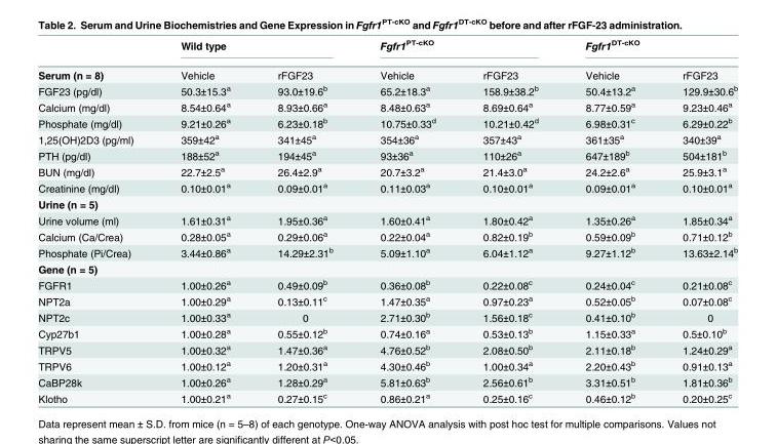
<table><thead><tr><td rowspan="2">Serum (n = 8)</td><td colspan="2">Wild type</td><td colspan="2">Fgfr1<sup>PT-cKO</sup></td><td colspan="2">Fgfr1<sup>DT-cKO</sup></td></tr><tr><td>Vehicle</td><td>rFGF23</td><td>Vehicle</td><td>rFGF23</td><td>Vehicle</td><td>rFGF23</td></tr></thead><tbody><tr><td>FGF23 (pg/dl)</td><td>50.3±15.3<sup>a</sup></td><td>93.0±19.6<sup>b</sup></td><td>65.2±18.3<sup>a</sup></td><td>158.9±38.2<sup>b</sup></td><td>50.4±13.2<sup>a</sup></td><td>129.9±30.6<sup>b</sup></td></tr><tr><td>Calcium (mg/dl)</td><td>8.54±0.64<sup>a</sup></td><td>8.93±0.66<sup>a</sup></td><td>8.48±0.63<sup>a</sup></td><td>8.69±0.64<sup>a</sup></td><td>8.77±0.59<sup>a</sup></td><td>9.23±0.46<sup>a</sup></td></tr><tr><td>Phosphate (mg/dl)</td><td>9.21±0.26<sup>a</sup></td><td>6.23±0.18<sup>b</sup></td><td>10.75±0.33<sup>d</sup></td><td>10.21±0.42<sup>d</sup></td><td>6.98±0.31<sup>c</sup></td><td>6.29±0.22<sup>b</sup></td></tr><tr><td>1,25(OH)2D3 (pg/ml)</td><td>359±42<sup>a</sup></td><td>341±45<sup>a</sup></td><td>354±36<sup>a</sup></td><td>357±43<sup>a</sup></td><td>361±35<sup>a</sup></td><td>340±39<sup>a</sup></td></tr><tr><td>PTH (pg/dl)</td><td>188±52<sup>a</sup></td><td>194±45<sup>a</sup></td><td>93±36<sup>a</sup></td><td>110±26<sup>a</sup></td><td>647±189<sup>b</sup></td><td>504±181<sup>b</sup></td></tr><tr><td>BUN (mg/dl)</td><td>22.7±2.5<sup>a</sup></td><td>26.4±2.9<sup>a</sup></td><td>20.7±3.2<sup>a</sup></td><td>21.4±3.0<sup>a</sup></td><td>24.2±2.6<sup>a</sup></td><td>25.9±3.1<sup>a</sup></td></tr><tr><td>Creatinine (mg/dl)</td><td>0.10±0.01<sup>a</sup></td><td>0.09±0.01<sup>a</sup></td><td>0.11±0.03<sup>a</sup></td><td>0.10±0.01<sup>a</sup></td><td>0.09±0.01<sup>a</sup></td><td>0.10±0.01<sup>a</sup></td></tr><tr><td colspan="7">Urine (n = 5)</td></tr><tr><td>Urine volume (ml)</td><td>1.61±0.31<sup>a</sup></td><td>1.95±0.36<sup>a</sup></td><td>1.60±0.41<sup>a</sup></td><td>1.80±0.42<sup>a</sup></td><td>1.35±0.26<sup>a</sup></td><td>1.85±0.34<sup>a</sup></td></tr><tr><td>Calcium (Ca/Crea)</td><td>0.28±0.05<sup>a</sup></td><td>0.29±0.06<sup>a</sup></td><td>0.22±0.04<sup>a</sup></td><td>0.82±0.19<sup>b</sup></td><td>0.59±0.09<sup>b</sup></td><td>0.71±0.12<sup>b</sup></td></tr><tr><td>Phosphate (Pi/Crea)</td><td>3.44±0.86<sup>a</sup></td><td>14.29±2.31<sup>b</sup></td><td>5.09±1.10<sup>a</sup></td><td>6.04±1.12<sup>a</sup></td><td>9.27±1.12<sup>b</sup></td><td>13.63±2.14<sup>b</sup></td></tr><tr><td colspan="7">Gene (n = 5)</td></tr><tr><td>FGFR1</td><td>1.00±0.26<sup>a</sup></td><td>0.49±0.09<sup>b</sup></td><td>0.36±0.08<sup>b</sup></td><td>0.22±0.08<sup>c</sup></td><td>0.24±0.04<sup>c</sup></td><td>0.21±0.08<sup>c</sup></td></tr><tr><td>NPT2a</td><td>1.00±0.29<sup>a</sup></td><td>0.13±0.11<sup>c</sup></td><td>1.47±0.35<sup>a</sup></td><td>0.97±0.23<sup>a</sup></td><td>0.52±0.05<sup>b</sup></td><td>0.07±0.08<sup>c</sup></td></tr><tr><td>NPT2c</td><td>1.00±0.33<sup>a</sup></td><td>0</td><td>2.71±0.30<sup>b</sup></td><td>1.56±0.18<sup>c</sup></td><td>0.41±0.10<sup>b</sup></td><td>0</td></tr><tr><td>Cyp27b1</td><td>1.00±0.28<sup>a</sup></td><td>0.55±0.12<sup>b</sup></td><td>0.74±0.16<sup>a</sup></td><td>0.53±0.13<sup>b</sup></td><td>1.15±0.33<sup>a</sup></td><td>0.5±0.10<sup>b</sup></td></tr><tr><td>TRPV5</td><td>1.00±0.32<sup>a</sup></td><td>1.47±0.36<sup>a</sup></td><td>4.76±0.52<sup>b</sup></td><td>2.08±0.50<sup>b</sup></td><td>2.11±0.18<sup>b</sup></td><td>1.24±0.29<sup>a</sup></td></tr><tr><td>TRPV6</td><td>1.00±0.12<sup>a</sup></td><td>1.20±0.31<sup>a</sup></td><td>4.30±0.46<sup>b</sup></td><td>1.00±0.34<sup>a</sup></td><td>2.20±0.43<sup>b</sup></td><td>0.91±0.13<sup>a</sup></td></tr><tr><td>CaBP28k</td><td>1.00±0.26<sup>a</sup></td><td>1.28±0.29<sup>a</sup></td><td>5.81±0.63<sup>b</sup></td><td>2.56±0.61<sup>b</sup></td><td>3.31±0.51<sup>b</sup></td><td>1.81±0.36<sup>b</sup></td></tr><tr><td>Klotho</td><td>1.00±0.21<sup>a</sup></td><td>0.27±0.15<sup>c</sup></td><td>0.86±0.21<sup>a</sup></td><td>0.25±0.16<sup>c</sup></td><td>0.46±0.12<sup>b</sup></td><td>0.20±0.25<sup>c</sup></td></tr></tbody></table>